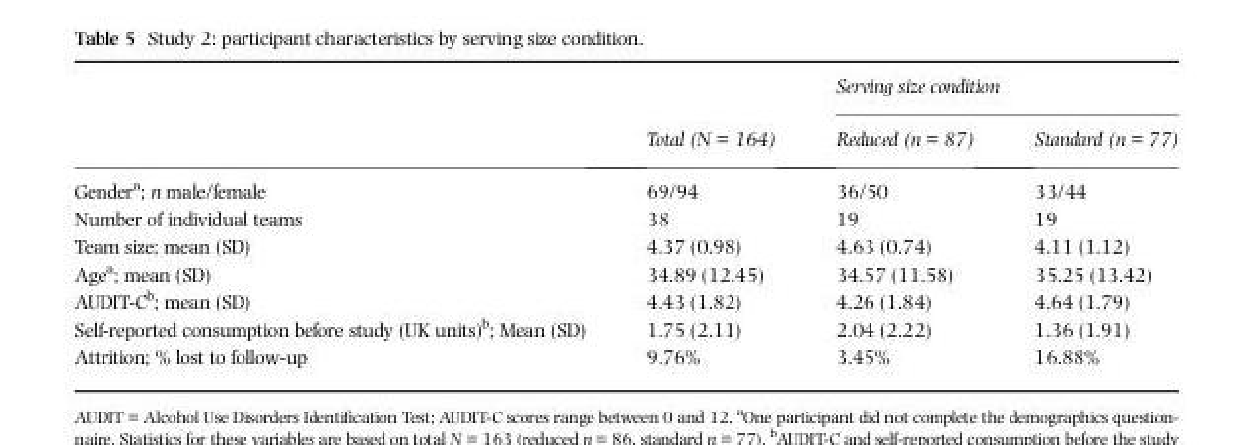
<table><thead><tr><td rowspan="2"></td><td rowspan="2">Total (N = 164)</td><td colspan="2">Serving size condition</td></tr><tr><td>Reduced (n = 87)</td><td>Standard (n = 77)</td></tr></thead><tbody><tr><td>Gender<sup>a</sup>; n male/female</td><td>69/94</td><td>36/50</td><td>33/44</td></tr><tr><td>Number of individual teams</td><td>38</td><td>19</td><td>19</td></tr><tr><td>Team size; mean (SD)</td><td>4.37 (0.98)</td><td>4.63 (0.74)</td><td>4.11 (1.12)</td></tr><tr><td>Age<sup>a</sup>; mean (SD)</td><td>34.89 (12.45)</td><td>34.57 (11.58)</td><td>35.25 (13.42)</td></tr><tr><td>AUDIT-C<sup>b</sup>; mean (SD)</td><td>4.43 (1.82)</td><td>4.26 (1.84)</td><td>4.64 (1.79)</td></tr><tr><td>Self-reported consumption before study (UK units)<sup>b</sup>; Mean (SD)</td><td>1.75 (2.11)</td><td>2.04 (2.22)</td><td>1.36 (1.91)</td></tr><tr><td>Attrition; % lost to follow-up</td><td>9.76%</td><td>3.45%</td><td>16.88%</td></tr></tbody></table>